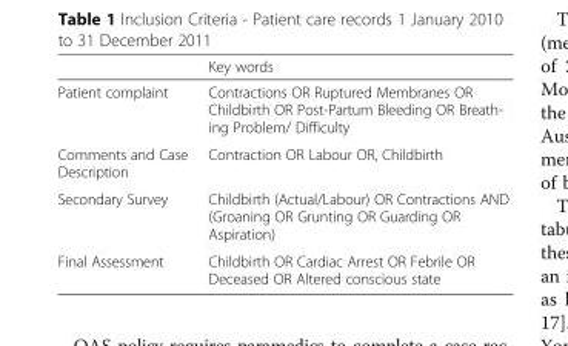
<table><thead><tr><td></td><td>Key words</td></tr></thead><tbody><tr><td>Patient complaint</td><td>Contractions OR Ruptured Membranes OR Childbirth OR Post-Partum Bleeding OR Breath- ing Problem/ Difficulty</td></tr><tr><td>Comments and Case Description</td><td>Contraction OR Labour OR, Childbirth</td></tr><tr><td>Secondary Survey</td><td>Childbirth (Actual/Labour) OR Contractions AND (Groaning OR Grunting OR Guarding OR Aspiration)</td></tr><tr><td>Final Assessment</td><td>Childbirth OR Cardiac Arrest OR Febrile OR Deceased OR Altered conscious state</td></tr></tbody></table>